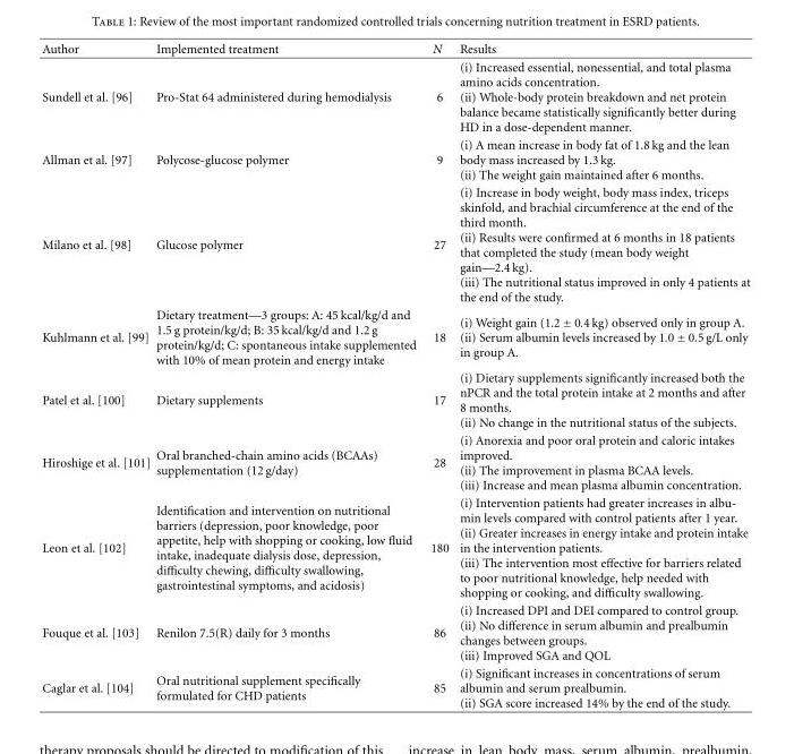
<table><thead><tr><td>Author</td><td>Implemented treatment</td><td>N</td><td>Results</td></tr></thead><tbody><tr><td>Sundell et al. [96]</td><td>Pro-Stat 64 administered during hemodialysis</td><td>6</td><td>(i) Increased essential, nonessential, and total plasma amino acids concentration. (ii) Whole-body protein breakdown and net protein balance became statistically significantly better during HD in a dose-dependent manner.</td></tr><tr><td>Allman et al. [97]</td><td>Polycose-glucose polymer</td><td>9</td><td>(i) A mean increase in body fat of 1.8 kg and the lean body mass increased by 1.3 kg. (ii) The weight gain maintained after 6 months.</td></tr><tr><td>Milano et al. [98]</td><td>Glucose polymer</td><td>27</td><td>(i) Increase in body weight, body mass index, triceps skinfold, and brachial circumference at the end of the third month. (ii) Results were confirmed at 6 months in 18 patients that completed the study (mean body weight gain—2.4 kg). (iii) The nutritional status improved in only 4 patients at the end of the study.</td></tr><tr><td>Kuhlmann et al. [99]</td><td>Dietary treatment—3 groups: A: 45 kcal/kg/d and 1.5 g protein/kg/d; B: 35 kcal/kg/d and 1.2 g protein/kg/d; C: spontaneous intake supplemented with 10% of mean protein and energy intake</td><td>18</td><td>(i) Weight gain (1.2 ± 0.4 kg) observed only in group A. (ii) Serum albumin levels increased by 1.0 ± 0.5 g/L only in group A.</td></tr><tr><td>Patel et al. [100]</td><td>Dietary supplements</td><td>17</td><td>(i) Dietary supplements significantly increased both the nPCR and the total protein intake at 2 months and after 8 months. (ii) No change in the nutritional status of the subjects.</td></tr><tr><td>Hiroshige et al. [101]</td><td>Oral branched-chain amino acids (BCAAs) supplementation (12 g/day)</td><td>28</td><td>(i) Anorexia and poor oral protein and caloric intakes improved. (ii) The improvement in plasma BCAA levels. (iii) Increase and mean plasma albumin concentration.</td></tr><tr><td>Leon et al. [102]</td><td>Identification and intervention on nutritional barriers (depression, poor knowledge, poor appetite, help with shopping or cooking, low fluid intake, inadequate dialysis dose, depression, difficulty chewing, difficulty swallowing, gastrointestinal symptoms, and acidosis)</td><td>180</td><td>(i) Intervention patients had greater increases in albu- min levels compared with control patients after 1 year. (ii) Greater increases in energy intake and protein intake in the intervention patients. (iii) The intervention most effective for barriers related to poor nutritional knowledge, help needed with shopping or cooking, and difficulty swallowing.</td></tr><tr><td>Fouque et al. [103]</td><td>Renilon 7.5(R) daily for 3 months</td><td>86</td><td>(i) Increased DPI and DEI compared to control group. (ii) No difference in serum albumin and prealbumin changes between groups. (iii) Improved SGA and QOL</td></tr><tr><td>Caglar et al. [104]</td><td>Oral nutritional supplement specifically formulated for CHD patients</td><td>85</td><td>(i) Significant increases in concentrations of serum albumin and serum prealbumin. (ii) SGA score increased 14% by the end of the study.</td></tr></tbody></table>